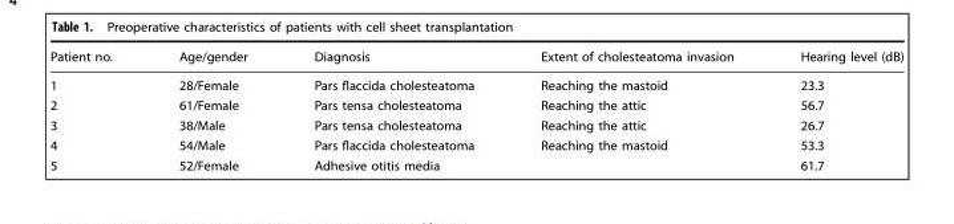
<table><thead><tr><td>Patient no.</td><td>Age/gender</td><td>Diagnosis</td><td>Extent of cholesteatoma invasion</td><td>Hearing level (dB)</td></tr></thead><tbody><tr><td>1</td><td>28/Female</td><td>Pars flaccida cholesteatoma</td><td>Reaching the mastoid</td><td>23.3</td></tr><tr><td>2</td><td>61/Female</td><td>Pars tensa cholesteatoma</td><td>Reaching the attic</td><td>56.7</td></tr><tr><td>3</td><td>38/Male</td><td>Pars tensa cholesteatoma</td><td>Reaching the attic</td><td>26.7</td></tr><tr><td>4</td><td>54/Male</td><td>Pars flaccida cholesteatoma</td><td>Reaching the mastoid</td><td>53.3</td></tr><tr><td>5</td><td>52/Female</td><td>Adhesive otitis media</td><td></td><td>61.7</td></tr></tbody></table>